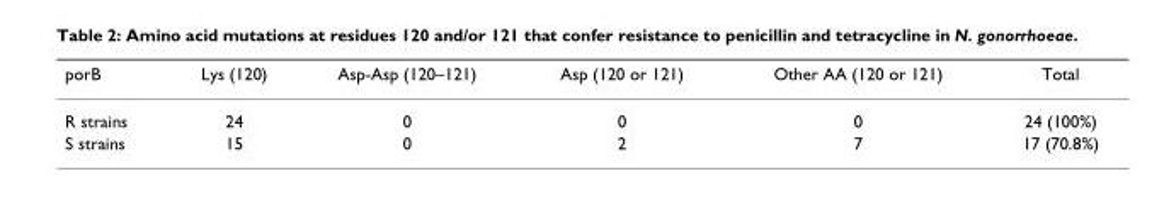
<table><thead><tr><td>porB</td><td>Lys (120)</td><td>Asp-Asp (120–121)</td><td>Asp (120 or 121)</td><td>Other AA (120 or 121)</td><td>Total</td></tr></thead><tbody><tr><td>R strains</td><td>24</td><td>0</td><td>0</td><td>0</td><td>24 (100%)</td></tr><tr><td>S strains</td><td>15</td><td>0</td><td>2</td><td>7</td><td>17 (70.8%)</td></tr></tbody></table>